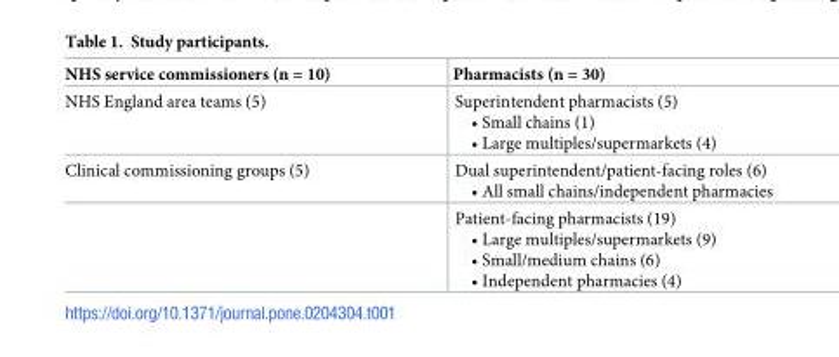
<table><thead><tr><td>NHS service commissioners (n = 10)</td><td>Pharmacists (n = 30)</td></tr></thead><tbody><tr><td>NHS England area teams (5)</td><td>Superintendent pharmacists (5) • Small chains (1) • Large multiples/supermarkets (4)</td></tr><tr><td rowspan="2">Clinical commissioning groups (5)</td><td>Dual superintendent/patient-facing roles (6) • All small chains/independent pharmacies</td></tr><tr><td>Patient-facing pharmacists (19) • Large multiples/supermarkets (9) • Small/medium chains (6) • Independent pharmacies (4)</td></tr></tbody></table>